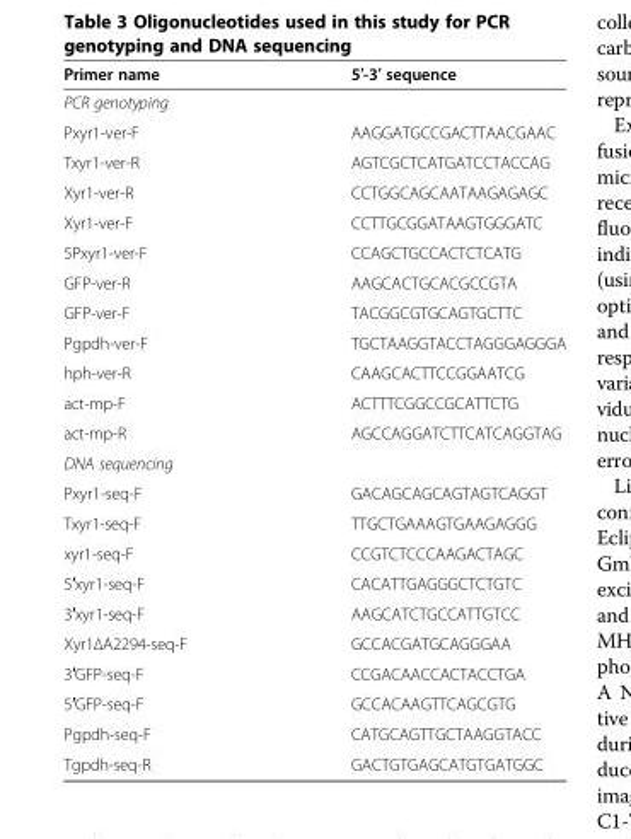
<table><thead><tr><td>Primer name</td><td>5′-3′ sequence</td></tr></thead><tbody><tr><td colspan="2">PCR genotyping</td></tr><tr><td>Pxyr1-ver-F</td><td>AAGGATGCCGACTTAACGAAC</td></tr><tr><td>Txyr1-ver-R</td><td>AGTCGCTCATGATCCTACCAG</td></tr><tr><td>Xyr1-ver-R</td><td>CCTGGCAGCAATAAGAGAGC</td></tr><tr><td>Xyr1-ver-F</td><td>CCTTGCGGATAAGTGGGATC</td></tr><tr><td>5Pxyr1-ver-F</td><td>CCAGCTGCCACTCTCATG</td></tr><tr><td>GFP-ver-R</td><td>AAGCACTGCACGCCGTA</td></tr><tr><td>GFP-ver-F</td><td>TACGGCGTGCAGTGCTTC</td></tr><tr><td>Pgpdh-ver-F</td><td>TGCTAAGGTACCTAGGGAGGGA</td></tr><tr><td>hph-ver-R</td><td>CAAGCACTTCCGGAATCG</td></tr><tr><td>act-mp-F</td><td>ACTTTCGGCCGCATTCTG</td></tr><tr><td>act-mp-R</td><td>AGCCAGGATCTTCATCAGGTAG</td></tr><tr><td colspan="2">DNA sequencing</td></tr><tr><td>Pxyr1-seq-F</td><td>GACAGCAGCAGTAGTCAGGT</td></tr><tr><td>Txyr1-seq-F</td><td>TTGCTGAAAGTGAAGAGGG</td></tr><tr><td>xyr1-seq-F</td><td>CCGTCTCCCAAGACTAGC</td></tr><tr><td>5′xyr1-seq-F</td><td>CACATTGAGGGCTCTGTC</td></tr><tr><td>3′xyr1-seq-F</td><td>AAGCATCTGCCATTGTCC</td></tr><tr><td>Xyr1ΔA2294-seq-F</td><td>GCCACGATGCAGGGAA</td></tr><tr><td>3′GFP-seq-F</td><td>CCGACAACCACTACCTGA</td></tr><tr><td>5′GFP-seq-F</td><td>GCCACAAGTTCAGCGTG</td></tr><tr><td>Pgpdh-seq-F</td><td>CATGCAGTTGCTAAGGTACC</td></tr><tr><td>Tgpdh-seq-R</td><td>GACTGTGAGCATGTGATGGC</td></tr></tbody></table>